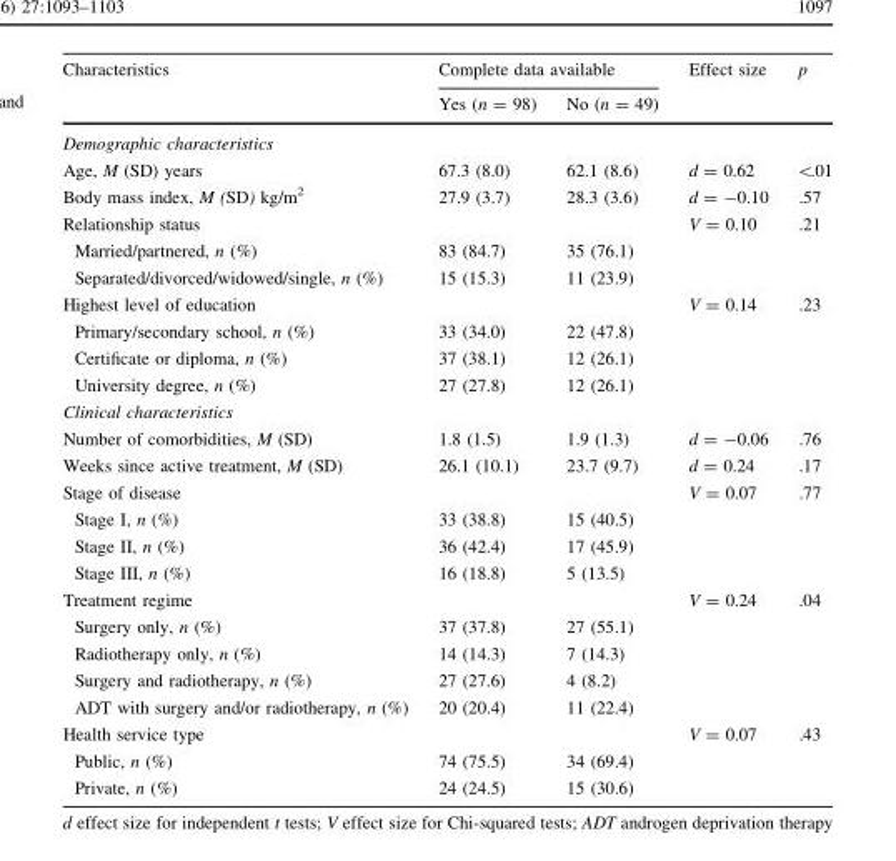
<table><thead><tr><td rowspan="2">Characteristics</td><td colspan="2">Complete data available</td><td rowspan="2">Effect size</td><td rowspan="2">p</td></tr><tr><td>Yes (n = 98)</td><td>No (n = 49)</td></tr></thead><tbody><tr><td colspan="5">Demographic characteristics</td></tr><tr><td>Age, M (SD) years</td><td>67.3 (8.0)</td><td>62.1 (8.6)</td><td>d = 0.62</td><td>&lt;.01</td></tr><tr><td>Body mass index, M (SD) kg/m<sup>2</sup></td><td>27.9 (3.7)</td><td>28.3 (3.6)</td><td>d = -0.10</td><td>.57</td></tr><tr><td>Relationship status</td><td></td><td></td><td>V = 0.10</td><td>.21</td></tr><tr><td>Married/partnered, n (%)</td><td>83 (84.7)</td><td>35 (76.1)</td><td></td><td></td></tr><tr><td>Separated/divorced/widowed/single, n (%)</td><td>15 (15.3)</td><td>11 (23.9)</td><td></td><td></td></tr><tr><td>Highest level of education</td><td></td><td></td><td>V = 0.14</td><td>.23</td></tr><tr><td>Primary/secondary school, n (%)</td><td>33 (34.0)</td><td>22 (47.8)</td><td></td><td></td></tr><tr><td>Certificate or diploma, n (%)</td><td>37 (38.1)</td><td>12 (26.1)</td><td></td><td></td></tr><tr><td>University degree, n (%)</td><td>27 (27.8)</td><td>12 (26.1)</td><td></td><td></td></tr><tr><td colspan="5">Clinical characteristics</td></tr><tr><td>Number of comorbidities, M (SD)</td><td>1.8 (1.5)</td><td>1.9 (1.3)</td><td>d = -0.06</td><td>.76</td></tr><tr><td>Weeks since active treatment, M (SD)</td><td>26.1 (10.1)</td><td>23.7 (9.7)</td><td>d = 0.24</td><td>.17</td></tr><tr><td>Stage of disease</td><td></td><td></td><td>V = 0.07</td><td>.77</td></tr><tr><td>Stage I, n (%)</td><td>33 (38.8)</td><td>15 (40.5)</td><td></td><td></td></tr><tr><td>Stage II, n (%)</td><td>36 (42.4)</td><td>17 (45.9)</td><td></td><td></td></tr><tr><td>Stage III, n (%)</td><td>16 (18.8)</td><td>5 (13.5)</td><td></td><td></td></tr><tr><td>Treatment regime</td><td></td><td></td><td>V = 0.24</td><td>.04</td></tr><tr><td>Surgery only, n (%)</td><td>37 (37.8)</td><td>27 (55.1)</td><td></td><td></td></tr><tr><td>Radiotherapy only, n (%)</td><td>14 (14.3)</td><td>7 (14.3)</td><td></td><td></td></tr><tr><td>Surgery and radiotherapy, n (%)</td><td>27 (27.6)</td><td>4 (8.2)</td><td></td><td></td></tr><tr><td>ADT with surgery and/or radiotherapy, n (%)</td><td>20 (20.4)</td><td>11 (22.4)</td><td></td><td></td></tr><tr><td>Health service type</td><td></td><td></td><td>V = 0.07</td><td>.43</td></tr><tr><td>Public, n (%)</td><td>74 (75.5)</td><td>34 (69.4)</td><td></td><td></td></tr><tr><td>Private, n (%)</td><td>24 (24.5)</td><td>15 (30.6)</td><td></td><td></td></tr></tbody></table>